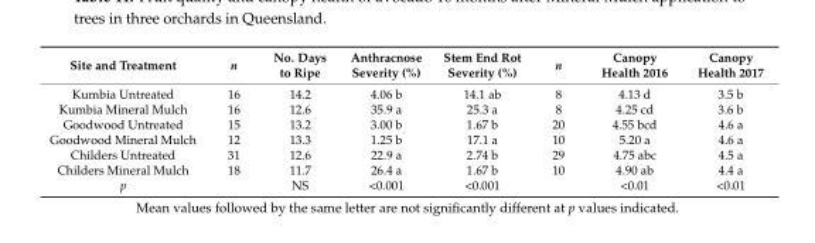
<table><thead><tr><td>Site and Treatment</td><td>n</td><td>No. Days to Ripe</td><td>Anthracnose Severity (%)</td><td>Stem End Rot Severity (%)</td><td>n</td><td>Canopy Health 2016</td><td>Canopy Health 2017</td></tr></thead><tbody><tr><td>Kumbia Untreated</td><td>16</td><td>14.2</td><td>4.06 b</td><td>14.1 ab</td><td>8</td><td>4.13 d</td><td>3.5 b</td></tr><tr><td>Kumbia Mineral Mulch</td><td>16</td><td>12.6</td><td>35.9 a</td><td>25.3 a</td><td>8</td><td>4.25 cd</td><td>3.6 b</td></tr><tr><td>Goodwood Untreated</td><td>15</td><td>13.2</td><td>3.00 b</td><td>1.67 b</td><td>20</td><td>4.55 bcd</td><td>4.6 a</td></tr><tr><td>Goodwood Mineral Mulch</td><td>12</td><td>13.3</td><td>1.25 b</td><td>17.1 a</td><td>10</td><td>5.20 a</td><td>4.6 a</td></tr><tr><td>Childers Untreated</td><td>31</td><td>12.6</td><td>22.9 a</td><td>2.74 b</td><td>29</td><td>4.75 abc</td><td>4.5 a</td></tr><tr><td>Childers Mineral Mulch</td><td>18</td><td>11.7</td><td>26.4 a</td><td>1.67 b</td><td>10</td><td>4.90 ab</td><td>4.4 a</td></tr><tr><td>p</td><td></td><td>NS</td><td>&lt;0.001</td><td>&lt;0.001</td><td></td><td>&lt;0.01</td><td>&lt;0.01</td></tr></tbody></table>